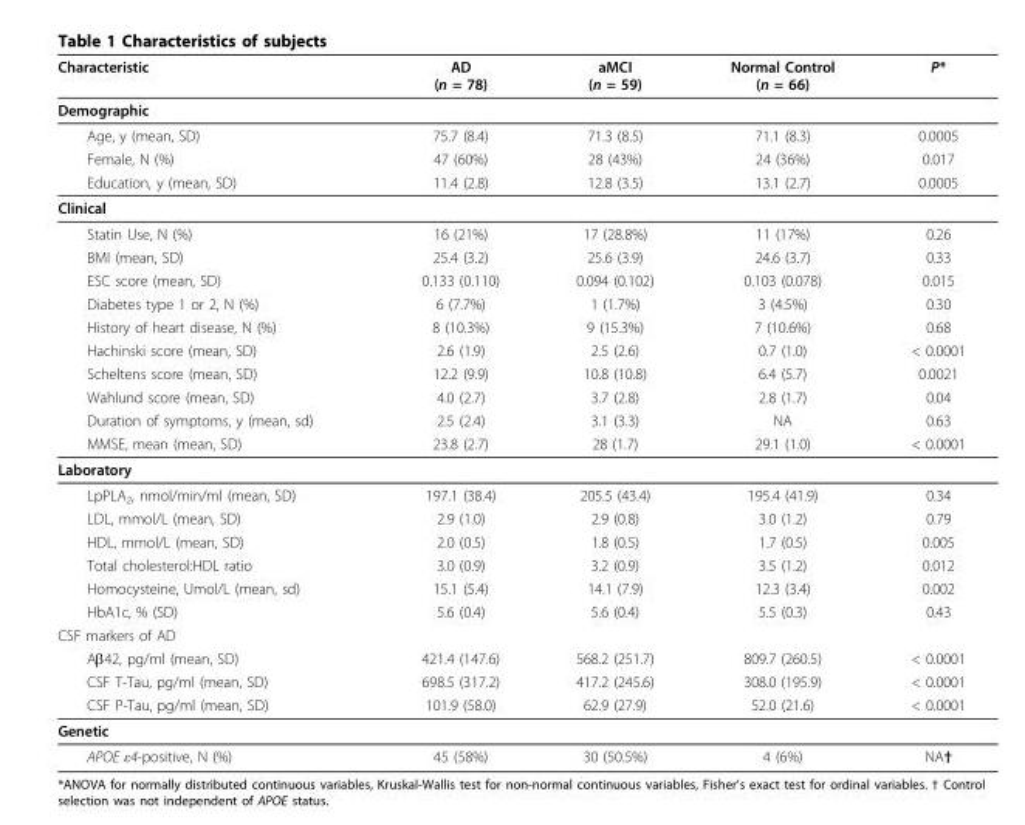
<table><thead><tr><td>Characteristic</td><td>AD (n = 78)</td><td>aMCI (n = 59)</td><td>Normal Control (n = 66)</td><td>P*</td></tr></thead><tbody><tr><td colspan="5">Demographic</td></tr><tr><td>Age, y (mean, SD)</td><td>75.7 (8.4)</td><td>71.3 (8.5)</td><td>71.1 (8.3)</td><td>0.0005</td></tr><tr><td>Female, N (%)</td><td>47 (60%)</td><td>28 (43%)</td><td>24 (36%)</td><td>0.017</td></tr><tr><td>Education, y (mean, SD)</td><td>11.4 (2.8)</td><td>12.8 (3.5)</td><td>13.1 (2.7)</td><td>0.0005</td></tr><tr><td colspan="5">Clinical</td></tr><tr><td>Statin Use, N (%)</td><td>16 (21%)</td><td>17 (28.8%)</td><td>11 (17%)</td><td>0.26</td></tr><tr><td>BMI (mean, SD)</td><td>25.4 (3.2)</td><td>25.6 (3.9)</td><td>24.6 (3.7)</td><td>0.33</td></tr><tr><td>ESC score (mean, SD)</td><td>0.133 (0.110)</td><td>0.094 (0.102)</td><td>0.103 (0.078)</td><td>0.015</td></tr><tr><td>Diabetes type 1 or 2, N (%)</td><td>6 (7.7%)</td><td>1 (1.7%)</td><td>3 (4.5%)</td><td>0.30</td></tr><tr><td>History of heart disease, N (%)</td><td>8 (10.3%)</td><td>9 (15.3%)</td><td>7 (10.6%)</td><td>0.68</td></tr><tr><td>Hachinski score (mean, SD)</td><td>2.6 (1.9)</td><td>2.5 (2.6)</td><td>0.7 (1.0)</td><td>&lt; 0.0001</td></tr><tr><td>Scheltens score (mean, SD)</td><td>12.2 (9.9)</td><td>10.8 (10.8)</td><td>6.4 (5.7)</td><td>0.0021</td></tr><tr><td>Wahlund score (mean, SD)</td><td>4.0 (2.7)</td><td>3.7 (2.8)</td><td>2.8 (1.7)</td><td>0.04</td></tr><tr><td>Duration of symptoms, y (mean, sd)</td><td>2.5 (2.4)</td><td>3.1 (3.3)</td><td>NA</td><td>0.63</td></tr><tr><td>MMSE, mean (mean, SD)</td><td>23.8 (2.7)</td><td>28 (1.7)</td><td>29.1 (1.0)</td><td>&lt; 0.0001</td></tr><tr><td colspan="5">Laboratory</td></tr><tr><td>LpPLA<sub>2</sub>, nmol/min/ml (mean, SD)</td><td>197.1 (38.4)</td><td>205.5 (43.4)</td><td>195.4 (41.9)</td><td>0.34</td></tr><tr><td>LDL, mmol/L (mean, SD)</td><td>2.9 (1.0)</td><td>2.9 (0.8)</td><td>3.0 (1.2)</td><td>0.79</td></tr><tr><td>HDL, mmol/L (mean, SD)</td><td>2.0 (0.5)</td><td>1.8 (0.5)</td><td>1.7 (0.5)</td><td>0.005</td></tr><tr><td>Total cholesterol:HDL ratio</td><td>3.0 (0.9)</td><td>3.2 (0.9)</td><td>3.5 (1.2)</td><td>0.012</td></tr><tr><td>Homocysteine, Umol/L (mean, sd)</td><td>15.1 (5.4)</td><td>14.1 (7.9)</td><td>12.3 (3.4)</td><td>0.002</td></tr><tr><td>HbA1c, % (SD)</td><td>5.6 (0.4)</td><td>5.6 (0.4)</td><td>5.5 (0.3)</td><td>0.43</td></tr><tr><td colspan="5">CSF markers of AD</td></tr><tr><td>Aβ42, pg/ml (mean, SD)</td><td>421.4 (147.6)</td><td>568.2 (251.7)</td><td>809.7 (260.5)</td><td>&lt; 0.0001</td></tr><tr><td>CSF T-Tau, pg/ml (mean, SD)</td><td>698.5 (317.2)</td><td>417.2 (245.6)</td><td>308.0 (195.9)</td><td>&lt; 0.0001</td></tr><tr><td>CSF P-Tau, pg/ml (mean, SD)</td><td>101.9 (58.0)</td><td>62.9 (27.9)</td><td>52.0 (21.6)</td><td>&lt; 0.0001</td></tr><tr><td colspan="5">Genetic</td></tr><tr><td>APOE ε4-positive, N (%)</td><td>45 (58%)</td><td>30 (50.5%)</td><td>4 (6%)</td><td>NA†</td></tr></tbody></table>